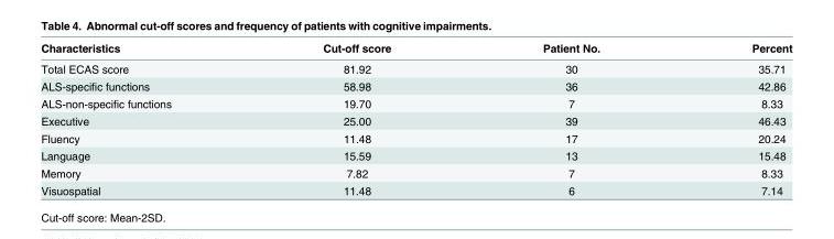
<table><thead><tr><td>Characteristics</td><td>Cut-off score</td><td>Patient No.</td><td>Percent</td></tr></thead><tbody><tr><td>Total ECAS score</td><td>81.92</td><td>30</td><td>35.71</td></tr><tr><td>ALS-specific functions</td><td>58.98</td><td>36</td><td>42.86</td></tr><tr><td>ALS-non-specific functions</td><td>19.70</td><td>7</td><td>8.33</td></tr><tr><td>Executive</td><td>25.00</td><td>39</td><td>46.43</td></tr><tr><td>Fluency</td><td>11.48</td><td>17</td><td>20.24</td></tr><tr><td>Language</td><td>15.59</td><td>13</td><td>15.48</td></tr><tr><td>Memory</td><td>7.82</td><td>7</td><td>8.33</td></tr><tr><td>Visuospatial</td><td>11.48</td><td>6</td><td>7.14</td></tr></tbody></table>